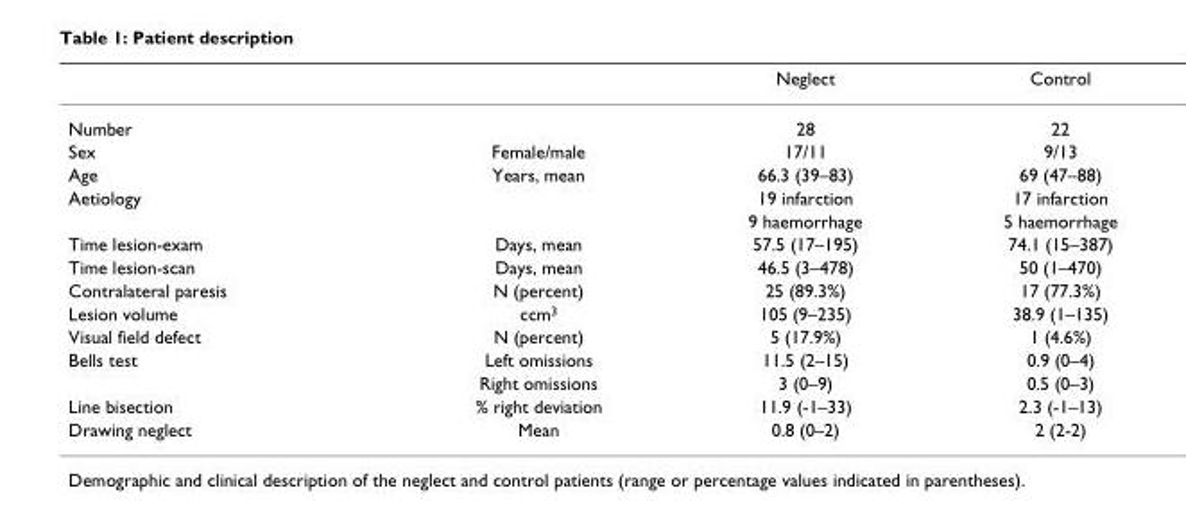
<table><thead><tr><td></td><td></td><td>Neglect</td><td>Control</td></tr></thead><tbody><tr><td>Number</td><td></td><td>28</td><td>22</td></tr><tr><td>Sex</td><td>Female/male</td><td>17/11</td><td>9/13</td></tr><tr><td>Age</td><td>Years, mean</td><td>66.3 (39–83)</td><td>69 (47–88)</td></tr><tr><td rowspan="2">Aetiology</td><td></td><td>19 infarction</td><td>17 infarction</td></tr><tr><td></td><td>9 haemorrhage</td><td>5 haemorrhage</td></tr><tr><td>Time lesion-exam</td><td>Days, mean</td><td>57.5 (17–195)</td><td>74.1 (15–387)</td></tr><tr><td>Time lesion-scan</td><td>Days, mean</td><td>46.5 (3–478)</td><td>50 (1–470)</td></tr><tr><td>Contralateral paresis</td><td>N (percent)</td><td>25 (89.3%)</td><td>17 (77.3%)</td></tr><tr><td>Lesion volume</td><td>ccm<sup>3</sup></td><td>105 (9–235)</td><td>38.9 (1–135)</td></tr><tr><td>Visual field defect</td><td>N (percent)</td><td>5 (17.9%)</td><td>1 (4.6%)</td></tr><tr><td rowspan="2">Bells test</td><td>Left omissions</td><td>11.5 (2–15)</td><td>0.9 (0–4)</td></tr><tr><td>Right omissions</td><td>3 (0–9)</td><td>0.5 (0–3)</td></tr><tr><td>Line bisection</td><td>% right deviation</td><td>11.9 (-1–33)</td><td>2.3 (-1–13)</td></tr><tr><td>Drawing neglect</td><td>Mean</td><td>0.8 (0–2)</td><td>2 (2-2)</td></tr></tbody></table>